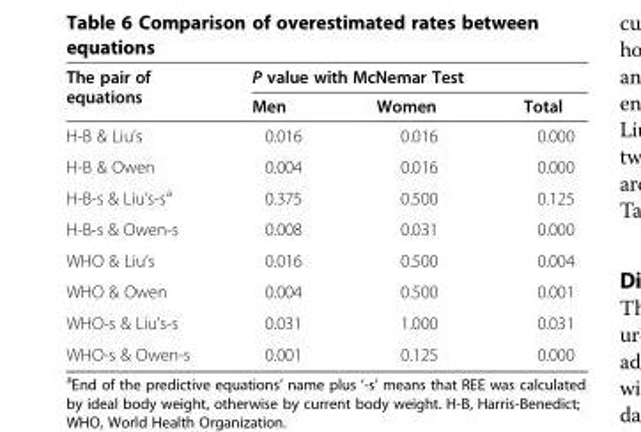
<table><thead><tr><td rowspan="2">The pair of equations</td><td colspan="3">P value with McNemar Test</td></tr><tr><td>Men</td><td>Women</td><td>Total</td></tr></thead><tbody><tr><td>H-B &amp; Liu’s</td><td>0.016</td><td>0.016</td><td>0.000</td></tr><tr><td>H-B &amp; Owen</td><td>0.004</td><td>0.016</td><td>0.000</td></tr><tr><td>H-B-s &amp; Liu’s-s<sup>a</sup></td><td>0.375</td><td>0.500</td><td>0.125</td></tr><tr><td>H-B-s &amp; Owen-s</td><td>0.008</td><td>0.031</td><td>0.000</td></tr><tr><td>WHO &amp; Liu’s</td><td>0.016</td><td>0.500</td><td>0.004</td></tr><tr><td>WHO &amp; Owen</td><td>0.004</td><td>0.500</td><td>0.001</td></tr><tr><td>WHO-s &amp; Liu’s-s</td><td>0.031</td><td>1.000</td><td>0.031</td></tr><tr><td>WHO-s &amp; Owen-s</td><td>0.001</td><td>0.125</td><td>0.000</td></tr></tbody></table>